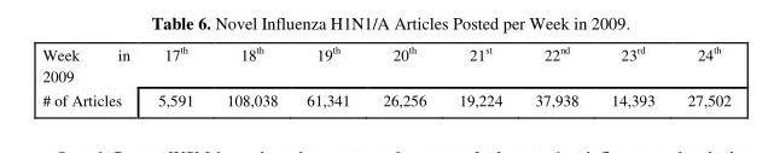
<table><thead><tr><td>Week in 2009</td><td>17<sup>th</sup></td><td>18<sup>th</sup></td><td>19<sup>th</sup></td><td>20<sup>th</sup></td><td>21<sup>st</sup></td><td>22<sup>nd</sup></td><td>23<sup>rd</sup></td><td>24<sup>th</sup></td></tr></thead><tbody><tr><td># of Articles</td><td>5,591</td><td>108,038</td><td>61,341</td><td>26,256</td><td>19,224</td><td>37,938</td><td>14,393</td><td>27,502</td></tr></tbody></table>